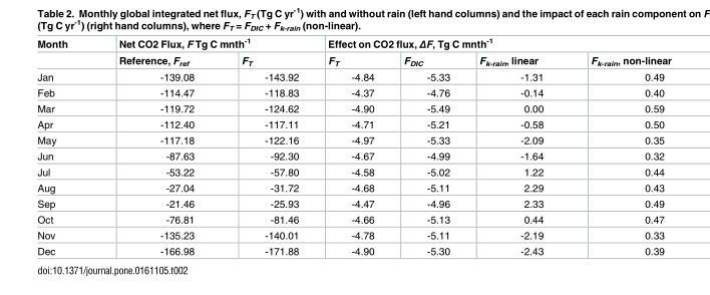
<table><thead><tr><td rowspan="2">Month</td><td colspan="2">Net CO2 Flux, F Tg C mnth<sup>-1</sup></td><td colspan="4">Effect on CO2 flux, ΔF, Tg C mnth<sup>-1</sup></td></tr><tr><td>Reference, F<sub>ref</sub></td><td>F<sub>T</sub></td><td>F<sub>T</sub></td><td>F<sub>DIC</sub></td><td>F<sub>k-rain</sub>, linear</td><td>F<sub>k-rain</sub>, non-linear</td></tr></thead><tbody><tr><td>Jan</td><td>-139.08</td><td>-143.92</td><td>-4.84</td><td>-5.33</td><td>-1.31</td><td>0.49</td></tr><tr><td>Feb</td><td>-114.47</td><td>-118.83</td><td>-4.37</td><td>-4.76</td><td>-0.14</td><td>0.40</td></tr><tr><td>Mar</td><td>-119.72</td><td>-124.62</td><td>-4.90</td><td>-5.49</td><td>0.00</td><td>0.59</td></tr><tr><td>Apr</td><td>-112.40</td><td>-117.11</td><td>-4.71</td><td>-5.21</td><td>-0.58</td><td>0.50</td></tr><tr><td>May</td><td>-117.18</td><td>-122.16</td><td>-4.97</td><td>-5.33</td><td>-2.09</td><td>0.35</td></tr><tr><td>Jun</td><td>-87.63</td><td>-92.30</td><td>-4.67</td><td>-4.99</td><td>-1.64</td><td>0.32</td></tr><tr><td>Jul</td><td>-53.22</td><td>-57.80</td><td>-4.58</td><td>-5.02</td><td>1.22</td><td>0.44</td></tr><tr><td>Aug</td><td>-27.04</td><td>-31.72</td><td>-4.68</td><td>-5.11</td><td>2.29</td><td>0.43</td></tr><tr><td>Sep</td><td>-21.46</td><td>-25.93</td><td>-4.47</td><td>-4.96</td><td>2.33</td><td>0.49</td></tr><tr><td>Oct</td><td>-76.81</td><td>-81.46</td><td>-4.66</td><td>-5.13</td><td>0.44</td><td>0.47</td></tr><tr><td>Nov</td><td>-135.23</td><td>-140.01</td><td>-4.78</td><td>-5.11</td><td>-2.19</td><td>0.33</td></tr><tr><td>Dec</td><td>-166.98</td><td>-171.88</td><td>-4.90</td><td>-5.30</td><td>-2.43</td><td>0.39</td></tr></tbody></table>